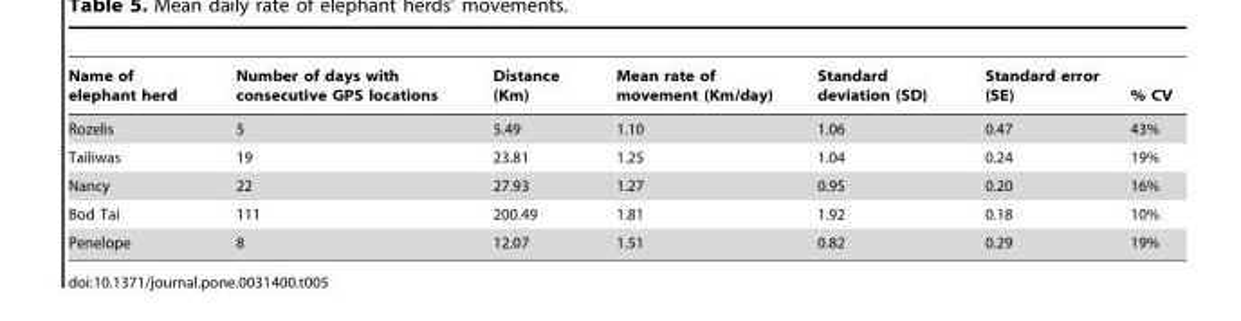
<table><thead><tr><td>Name of elephant herd</td><td>Number of days with consecutive GPS locations</td><td>Distance (Km)</td><td>Mean rate of movement (Km/day)</td><td>Standard deviation (SD)</td><td>Standard error (SE)</td><td>% CV</td></tr></thead><tbody><tr><td>Rozelis</td><td>5</td><td>5.49</td><td>1.10</td><td>1.06</td><td>0.47</td><td>43%</td></tr><tr><td>Tailiwas</td><td>19</td><td>23.81</td><td>1.25</td><td>1.04</td><td>0.24</td><td>19%</td></tr><tr><td>Nancy</td><td>22</td><td>27.93</td><td>1.27</td><td>0.95</td><td>0.20</td><td>16%</td></tr><tr><td>Bod Tai</td><td>111</td><td>200.49</td><td>1.81</td><td>1.92</td><td>0.18</td><td>10%</td></tr><tr><td>Penelope</td><td>8</td><td>12.07</td><td>1.51</td><td>0.82</td><td>0.29</td><td>19%</td></tr></tbody></table>